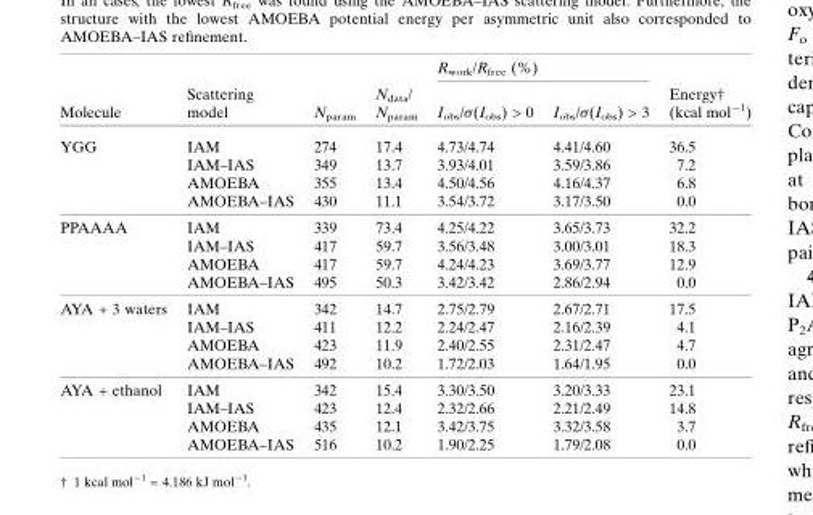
<table><thead><tr><td rowspan="2">Molecule</td><td rowspan="2">Scattering model</td><td rowspan="2">N<sub>param</sub></td><td rowspan="2">N<sub>data</sub>/ N<sub>param</sub></td><td colspan="2">R<sub>work</sub>/R<sub>free</sub> (%)</td><td rowspan="2">Energy† (kcal mol<sup>−1</sup>)</td></tr><tr><td>I<sub>obs</sub>/σ(I<sub>obs</sub>) &gt; 0</td><td>I<sub>obs</sub>/σ(I<sub>obs</sub>) &gt; 3</td></tr></thead><tbody><tr><td rowspan="4">YGG</td><td>IAM</td><td>274</td><td>17.4</td><td>4.73/4.74</td><td>4.41/4.60</td><td>36.5</td></tr><tr><td>IAM–IAS</td><td>349</td><td>13.7</td><td>3.93/4.01</td><td>3.59/3.86</td><td>7.2</td></tr><tr><td>AMOEBA</td><td>355</td><td>13.4</td><td>4.50/4.56</td><td>4.16/4.37</td><td>6.8</td></tr><tr><td>AMOEBA–IAS</td><td>430</td><td>11.1</td><td>3.54/3.72</td><td>3.17/3.50</td><td>0.0</td></tr><tr><td rowspan="4">PPAAAA</td><td>IAM</td><td>339</td><td>73.4</td><td>4.25/4.22</td><td>3.65/3.73</td><td>32.2</td></tr><tr><td>IAM–IAS</td><td>417</td><td>59.7</td><td>3.56/3.48</td><td>3.00/3.01</td><td>18.3</td></tr><tr><td>AMOEBA</td><td>417</td><td>59.7</td><td>4.24/4.23</td><td>3.69/3.77</td><td>12.9</td></tr><tr><td>AMOEBA–IAS</td><td>495</td><td>50.3</td><td>3.42/3.42</td><td>2.86/2.94</td><td>0.0</td></tr><tr><td rowspan="4">AYA + 3 waters</td><td>IAM</td><td>342</td><td>14.7</td><td>2.75/2.79</td><td>2.67/2.71</td><td>17.5</td></tr><tr><td>IAM–IAS</td><td>411</td><td>12.2</td><td>2.24/2.47</td><td>2.16/2.39</td><td>4.1</td></tr><tr><td>AMOEBA</td><td>423</td><td>11.9</td><td>2.40/2.55</td><td>2.31/2.47</td><td>4.7</td></tr><tr><td>AMOEBA–IAS</td><td>492</td><td>10.2</td><td>1.72/2.03</td><td>1.64/1.95</td><td>0.0</td></tr><tr><td rowspan="4">AYA + ethanol</td><td>IAM</td><td>342</td><td>15.4</td><td>3.30/3.50</td><td>3.20/3.33</td><td>23.1</td></tr><tr><td>IAM–IAS</td><td>423</td><td>12.4</td><td>2.32/2.66</td><td>2.21/2.49</td><td>14.8</td></tr><tr><td>AMOEBA</td><td>435</td><td>12.1</td><td>3.42/3.75</td><td>3.32/3.58</td><td>3.7</td></tr><tr><td>AMOEBA–IAS</td><td>516</td><td>10.2</td><td>1.90/2.25</td><td>1.79/2.08</td><td>0.0</td></tr></tbody></table>